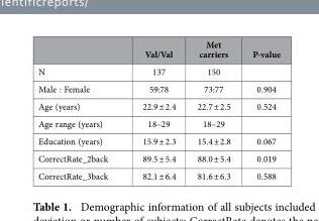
<table><thead><tr><td></td><td>Val/Val</td><td>Met carriers</td><td>P-value</td></tr></thead><tbody><tr><td>N</td><td>137</td><td>150</td><td></td></tr><tr><td>Male : Female</td><td>59:78</td><td>73:77</td><td>0.904</td></tr><tr><td>Age (years)</td><td>22.9 ± 2.4</td><td>22.7 ± 2.5</td><td>0.524</td></tr><tr><td>Age range (years)</td><td>18–29</td><td>18–29</td><td></td></tr><tr><td>Education (years)</td><td>15.9 ± 2.3</td><td>15.4 ± 2.8</td><td>0.067</td></tr><tr><td>CorrectRate_2back</td><td>89.5 ± 5.4</td><td>88.0 ± 5.4</td><td>0.019</td></tr><tr><td>CorrectRate_3back</td><td>82.1 ± 6.4</td><td>81.6 ± 6.3</td><td>0.588</td></tr></tbody></table>